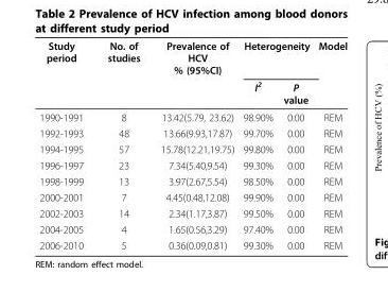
<table><thead><tr><td rowspan="2">Study period</td><td rowspan="2">No. of studies</td><td rowspan="2">Prevalence of HCV % (95%CI)</td><td colspan="2">Heterogeneity</td><td rowspan="2">Model</td></tr><tr><td>I<sup>2</sup></td><td>P value</td></tr></thead><tbody><tr><td>1990-1991</td><td>8</td><td>13.42(5.79, 23.62)</td><td>98.90%</td><td>0.00</td><td>REM</td></tr><tr><td>1992-1993</td><td>48</td><td>13.66(9.93,17.87)</td><td>99.70%</td><td>0.00</td><td>REM</td></tr><tr><td>1994-1995</td><td>57</td><td>15.78(12.21,19.75)</td><td>99.80%</td><td>0.00</td><td>REM</td></tr><tr><td>1996-1997</td><td>23</td><td>7.34(5.40,9.54)</td><td>99.30%</td><td>0.00</td><td>REM</td></tr><tr><td>1998-1999</td><td>13</td><td>3.97(2.67,5.54)</td><td>98.50%</td><td>0.00</td><td>REM</td></tr><tr><td>2000-2001</td><td>7</td><td>4.45(0.48,12.08)</td><td>99.90%</td><td>0.00</td><td>REM</td></tr><tr><td>2002-2003</td><td>14</td><td>2.34(1.17,3.87)</td><td>99.50%</td><td>0.00</td><td>REM</td></tr><tr><td>2004-2005</td><td>4</td><td>1.65(0.56,3.29)</td><td>97.40%</td><td>0.00</td><td>REM</td></tr><tr><td>2006-2010</td><td>5</td><td>0.36(0.09,0.81)</td><td>99.30%</td><td>0.00</td><td>REM</td></tr></tbody></table>